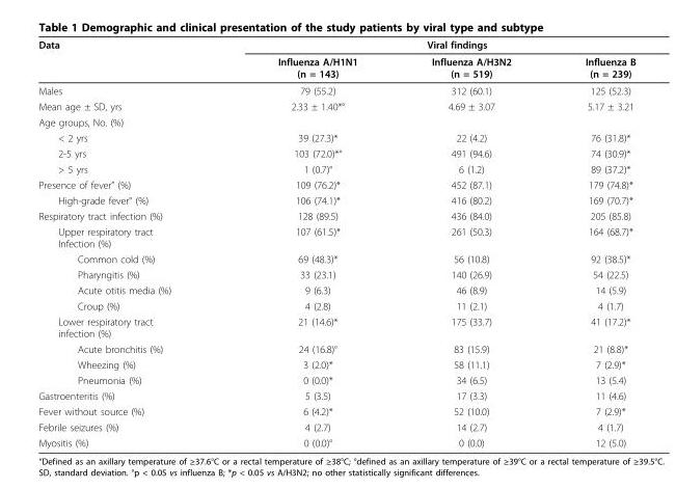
<table><thead><tr><td rowspan="2">Data</td><td colspan="3">Viral findings</td></tr><tr><td>Influenza A/H1N1 (n = 143)</td><td>Influenza A/H3N2 (n = 519)</td><td>Influenza B (n = 239)</td></tr></thead><tbody><tr><td>Males</td><td>79 (55.2)</td><td>312 (60.1)</td><td>125 (52.3)</td></tr><tr><td>Mean age ± SD, yrs</td><td>2.33 ± 1.40*°</td><td>4.69 ± 3.07</td><td>5.17 ± 3.21</td></tr><tr><td colspan="4">Age groups, No. (%)</td></tr><tr><td>&lt; 2 yrs</td><td>39 (27.3)*</td><td>22 (4.2)</td><td>76 (31.8)*</td></tr><tr><td>2-5 yrs</td><td>103 (72.0)*°</td><td>491 (94.6)</td><td>74 (30.9)*</td></tr><tr><td>&gt; 5 yrs</td><td>1 (0.7)°</td><td>6 (1.2)</td><td>89 (37.2)*</td></tr><tr><td>Presence of fever” (%)</td><td>109 (76.2)*</td><td>452 (87.1)</td><td>179 (74.8)*</td></tr><tr><td>High-grade fever° (%)</td><td>106 (74.1)*</td><td>416 (80.2)</td><td>169 (70.7)*</td></tr><tr><td>Respiratory tract infection (%)</td><td>128 (89.5)</td><td>436 (84.0)</td><td>205 (85.8)</td></tr><tr><td>Upper respiratory tract Infection (%)</td><td>107 (61.5)*</td><td>261 (50.3)</td><td>164 (68.7)*</td></tr><tr><td>Common cold (%)</td><td>69 (48.3)*</td><td>56 (10.8)</td><td>92 (38.5)*</td></tr><tr><td>Pharyngitis (%)</td><td>33 (23.1)</td><td>140 (26.9)</td><td>54 (22.5)</td></tr><tr><td>Acute otitis media (%)</td><td>9 (6.3)</td><td>46 (8.9)</td><td>14 (5.9)</td></tr><tr><td>Croup (%)</td><td>4 (2.8)</td><td>11 (2.1)</td><td>4 (1.7)</td></tr><tr><td>Lower respiratory tract infection (%)</td><td>21 (14.6)*</td><td>175 (33.7)</td><td>41 (17.2)*</td></tr><tr><td>Acute bronchitis (%)</td><td>24 (16.8)°</td><td>83 (15.9)</td><td>21 (8.8)*</td></tr><tr><td>Wheezing (%)</td><td>3 (2.0)*</td><td>58 (11.1)</td><td>7 (2.9)*</td></tr><tr><td>Pneumonia (%)</td><td>0 (0.0)*</td><td>34 (6.5)</td><td>13 (5.4)</td></tr><tr><td>Gastroenteritis (%)</td><td>5 (3.5)</td><td>17 (3.3)</td><td>11 (4.6)</td></tr><tr><td>Fever without source (%)</td><td>6 (4.2)*</td><td>52 (10.0)</td><td>7 (2.9)*</td></tr><tr><td>Febrile seizures (%)</td><td>4 (2.7)</td><td>14 (2.7)</td><td>4 (1.7)</td></tr><tr><td>Myositis (%)</td><td>0 (0.0)°</td><td>0 (0.0)</td><td>12 (5.0)</td></tr></tbody></table>